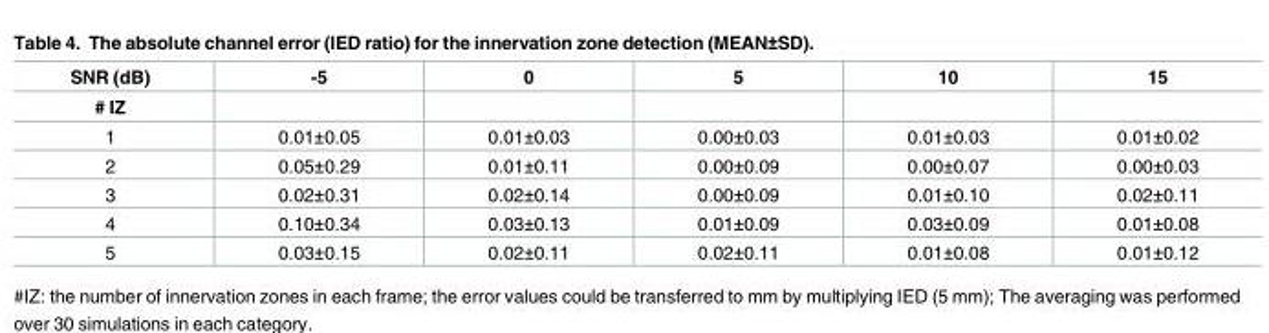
<table><thead><tr><td rowspan="2">SNR (dB) # IZ</td><td rowspan="2">-5</td><td rowspan="2">0</td><td rowspan="2">5</td><td rowspan="2">10</td><td rowspan="2">15</td></tr><tr></tr></thead><tbody><tr><td>1</td><td>0.01±0.05</td><td>0.01±0.03</td><td>0.00±0.03</td><td>0.01±0.03</td><td>0.01±0.02</td></tr><tr><td>2</td><td>0.05±0.29</td><td>0.01±0.11</td><td>0.00±0.09</td><td>0.00±0.07</td><td>0.00±0.03</td></tr><tr><td>3</td><td>0.02±0.31</td><td>0.02±0.14</td><td>0.00±0.09</td><td>0.01±0.10</td><td>0.02±0.11</td></tr><tr><td>4</td><td>0.10±0.34</td><td>0.03±0.13</td><td>0.01±0.09</td><td>0.03±0.09</td><td>0.01±0.08</td></tr><tr><td>5</td><td>0.03±0.15</td><td>0.02±0.11</td><td>0.02±0.11</td><td>0.01±0.08</td><td>0.01±0.12</td></tr></tbody></table>